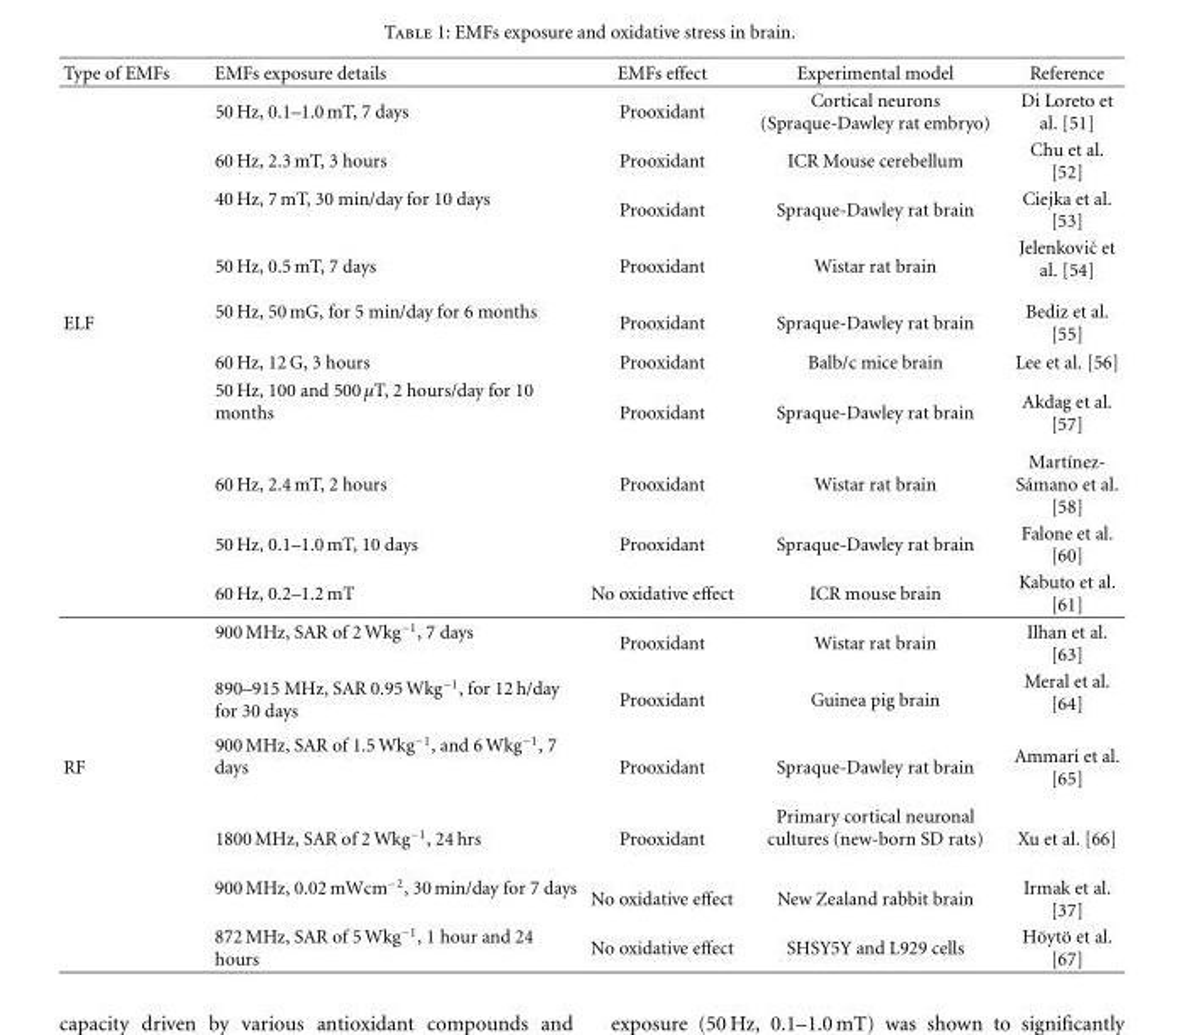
<table><thead><tr><td>Type of EMFs</td><td>EMFs exposure details</td><td>EMFs effect</td><td>Experimental model</td><td>Reference</td></tr></thead><tbody><tr><td></td><td>50 Hz, 0.1–1.0 mT, 7 days</td><td>Prooxidant</td><td>Cortical neurons (Spraque-Dawley rat embryo)</td><td>Di Loreto et al. [51]</td></tr><tr><td></td><td>60 Hz, 2.3 mT, 3 hours</td><td>Prooxidant</td><td>ICR Mouse cerebellum</td><td>Chu et al. [52]</td></tr><tr><td></td><td>40 Hz, 7 mT, 30 min/day for 10 days</td><td>Prooxidant</td><td>Spraque-Dawley rat brain</td><td>Ciejka et al. [53]</td></tr><tr><td></td><td>50 Hz, 0.5 mT, 7 days</td><td>Prooxidant</td><td>Wistar rat brain</td><td>Jelenkovi´c et al. [54]</td></tr><tr><td rowspan="8">ELF</td><td>50 Hz, 50 mG, for 5 min/day for 6 months</td><td>Prooxidant</td><td>Spraque-Dawley rat brain</td><td>Bediz et al. [55]</td></tr><tr><td>60 Hz, 12 G, 3 hours</td><td>Prooxidant</td><td>Balb/c mice brain</td><td>Lee et al. [56]</td></tr><tr><td>50 Hz, 100 and 500 μT, 2 hours/day for 10 months</td><td>Prooxidant</td><td>Spraque-Dawley rat brain</td><td>Akdag et al. [57]</td></tr><tr><td>60 Hz, 2.4 mT, 2 hours</td><td>Prooxidant</td><td>Wistar rat brain</td><td>Mart´ınez- S´amano et al. [58]</td></tr><tr><td>50 Hz, 0.1–1.0 mT, 10 days</td><td>Prooxidant</td><td>Spraque-Dawley rat brain</td><td>Falone et al. [60]</td></tr><tr><td>60 Hz, 0.2–1.2 mT</td><td>No oxidative effect</td><td>ICR mouse brain</td><td>Kabuto et al. [61]</td></tr><tr><td>900 MHz, SAR of 2 Wkg<sup>−1</sup>, 7 days</td><td>Prooxidant</td><td>Wistar rat brain</td><td>Ilhan et al. [63]</td></tr><tr><td>890–915 MHz, SAR 0.95 Wkg<sup>−1</sup>, for 12 h/day for 30 days</td><td>Prooxidant</td><td>Guinea pig brain</td><td>Meral et al. [64]</td></tr><tr><td rowspan="4">RF</td><td>900 MHz, SAR of 1.5 Wkg<sup>−1</sup>, and 6 Wkg<sup>−1</sup>, 7 days</td><td>Prooxidant</td><td>Spraque-Dawley rat brain</td><td>Ammari et al. [65]</td></tr><tr><td>1800 MHz, SAR of 2 Wkg<sup>−1</sup>, 24 hrs</td><td>Prooxidant</td><td>Primary cortical neuronal cultures (new-born SD rats)</td><td>Xu et al. [66]</td></tr><tr><td>900 MHz, 0.02 mWcm<sup>−2</sup>, 30 min/day for 7 days</td><td>No oxidative effect</td><td>New Zealand rabbit brain</td><td>Irmak et al. [37]</td></tr><tr><td>872 MHz, SAR of 5 Wkg<sup>−1</sup>, 1 hour and 24 hours</td><td>No oxidative effect</td><td>SHSY5Y and L929 cells</td><td>H¨oyt¨o et al. [67]</td></tr></tbody></table>